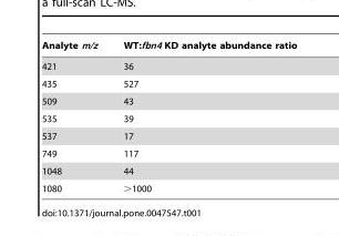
<table><thead><tr><td>Analyte m/z</td><td>WT:fbn4 KD analyte abundance ratio</td></tr></thead><tbody><tr><td>421</td><td>36</td></tr><tr><td>435</td><td>527</td></tr><tr><td>509</td><td>43</td></tr><tr><td>535</td><td>39</td></tr><tr><td>537</td><td>17</td></tr><tr><td>749</td><td>117</td></tr><tr><td>1048</td><td>44</td></tr><tr><td>1080</td><td>&gt;1000</td></tr></tbody></table>